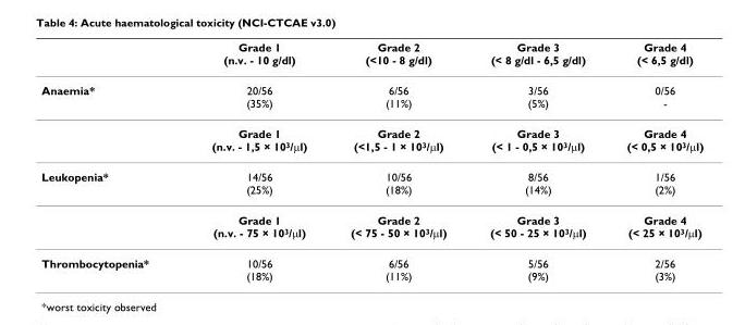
<table><thead><tr><td></td><td>Grade 1 (n.v. - 10 g/dl)</td><td>Grade 2 (&lt;10 - 8 g/dl)</td><td>Grade 3 (&lt; 8 g/dl - 6,5 g/dl)</td><td>Grade 4 (&lt; 6,5 g/dl)</td></tr></thead><tbody><tr><td rowspan="2">Anaemia*</td><td>20/56 (35%)</td><td>6/56 (11%)</td><td>3/56 (5%)</td><td>0/56 -</td></tr><tr><td>Grade 1 (n.v. - 1,5 × 10<sup>3</sup>/μl)</td><td>Grade 2 (&lt;1,5 - 1 × 10<sup>3</sup>/μl)</td><td>Grade 3 (&lt; 1 - 0,5 × 10<sup>3</sup>/μl)</td><td>Grade 4 (&lt; 0,5 × 10<sup>3</sup>/μl)</td></tr><tr><td rowspan="2">Leukopenia*</td><td>14/56 (25%)</td><td>10/56 (18%)</td><td>8/56 (14%)</td><td>1/56 (2%)</td></tr><tr><td>Grade 1 (n.v. - 75 × 10<sup>3</sup>/μl)</td><td>Grade 2 (&lt; 75 - 50 × 10<sup>3</sup>/μl)</td><td>Grade 3 (&lt; 50 - 25 × 10<sup>3</sup>/μl)</td><td>Grade 4 (&lt; 25 × 10<sup>3</sup>/μl)</td></tr><tr><td>Thrombocytopenia*</td><td>10/56 (18%)</td><td>6/56 (11%)</td><td>5/56 (9%)</td><td>2/56 (3%)</td></tr></tbody></table>